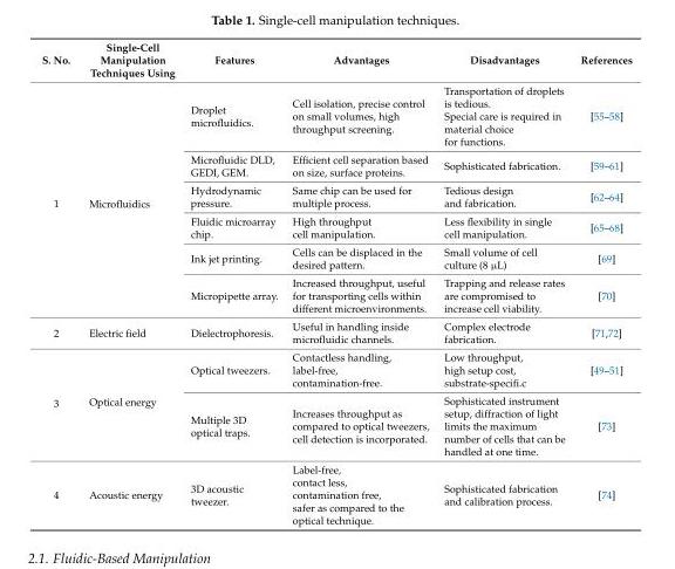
<table><thead><tr><td>S. No.</td><td>Single-Cell Manipulation Techniques Using</td><td>Features</td><td>Advantages</td><td>Disadvantages</td><td>References</td></tr></thead><tbody><tr><td rowspan="6">1</td><td rowspan="6">Microfluidics</td><td>Droplet microfluidics.</td><td>Cell isolation, precise control on small volumes, high throughput screening.</td><td>Transportation of droplets is tedious. Special care is required in material choice for functions.</td><td>[55–58]</td></tr><tr><td>Microfluidic DLD, GEDI, GEM.</td><td>Efficient cell separation based on size, surface proteins.</td><td>Sophisticated fabrication.</td><td>[59–61]</td></tr><tr><td>Hydrodynamic pressure.</td><td>Same chip can be used for multiple process.</td><td>Tedious design and fabrication.</td><td>[62–64]</td></tr><tr><td>Fluidic microarray chip.</td><td>High throughput cell manipulation.</td><td>Less flexibility in single cell manipulation.</td><td>[65–68]</td></tr><tr><td>Ink jet printing.</td><td>Cells can be displaced in the desired pattern.</td><td>Small volume of cell culture (8 µL)</td><td>[69]</td></tr><tr><td>Micropipette array.</td><td>Increased throughput, useful for transporting cells within different microenvironments.</td><td>Trapping and release rates are compromised to increase cell viability.</td><td>[70]</td></tr><tr><td>2</td><td>Electric field</td><td>Dielectrophoresis.</td><td>Useful in handling inside microfluidic channels.</td><td>Complex electrode fabrication.</td><td>[71,72]</td></tr><tr><td rowspan="2">3</td><td rowspan="2">Optical energy</td><td>Optical tweezers.</td><td>Contactless handling, label-free, contamination-free.</td><td>Low throughput, high setup cost, substrate-specifi.c</td><td>[49–51]</td></tr><tr><td>Multiple 3D optical traps.</td><td>Increases throughput as compared to optical tweezers, cell detection is incorporated.</td><td>Sophisticated instrument setup, diffraction of light limits the maximum number of cells that can be handled at one time.</td><td>[73]</td></tr><tr><td>4</td><td>Acoustic energy</td><td>3D acoustic tweezer.</td><td>Label-free, contact less, contamination free, safer as compared to the optical technique.</td><td>Sophisticated fabrication and calibration process.</td><td>[74]</td></tr></tbody></table>